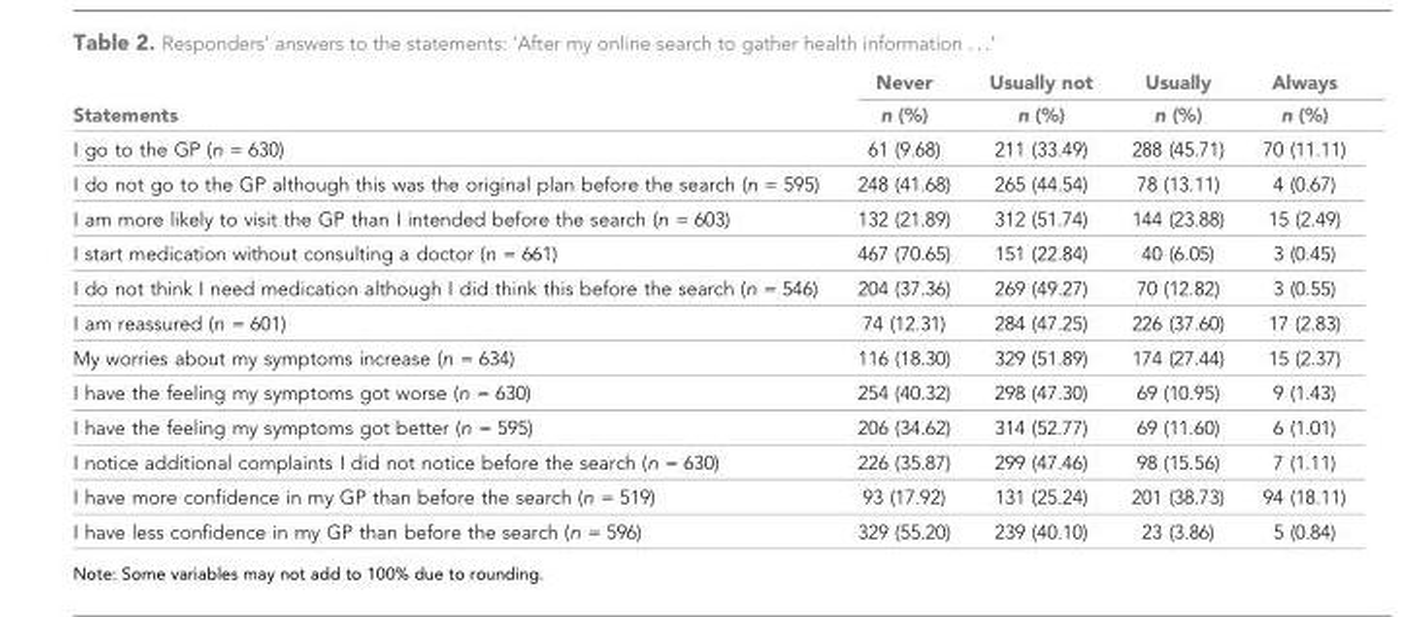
<table><thead><tr><td rowspan="2">Statements</td><td rowspan="2">Never n (%)</td><td rowspan="2">Usually not n (%)</td><td rowspan="2">Usually n (%)</td><td rowspan="2">Always n (%)</td></tr><tr></tr></thead><tbody><tr><td>I go to the GP (n = 630)</td><td>61 (9.68)</td><td>211 (33.49)</td><td>288 (45.71)</td><td>70 (11.11)</td></tr><tr><td>I do not go to the GP although this was the original plan before the search (n = 595)</td><td>248 (41.68)</td><td>265 (44.54)</td><td>78 (13.11)</td><td>4 (0.67)</td></tr><tr><td>I am more likely to visit the GP than I intended before the search (n = 603)</td><td>132 (21.89)</td><td>312 (51.74)</td><td>144 (23.88)</td><td>15 (2.49)</td></tr><tr><td>I start medication without consulting a doctor (n = 661)</td><td>467 (70.65)</td><td>151 (22.84)</td><td>40 (6.05)</td><td>3 (0.45)</td></tr><tr><td>I do not think I need medication although I did think this before the search (n = 546)</td><td>204 (37.36)</td><td>269 (49.27)</td><td>70 (12.82)</td><td>3 (0.55)</td></tr><tr><td>I am reassured (n = 601)</td><td>74 (12.31)</td><td>284 (47.25)</td><td>226 (37.60)</td><td>17 (2.83)</td></tr><tr><td>My worries about my symptoms increase (n = 634)</td><td>116 (18.30)</td><td>329 (51.89)</td><td>174 (27.44)</td><td>15 (2.37)</td></tr><tr><td>I have the feeling my symptoms got worse (n = 630)</td><td>254 (40.32)</td><td>298 (47.30)</td><td>69 (10.95)</td><td>9 (1.43)</td></tr><tr><td>I have the feeling my symptoms got better (n = 595)</td><td>206 (34.62)</td><td>314 (52.77)</td><td>69 (11.60)</td><td>6 (1.01)</td></tr><tr><td>I notice additional complaints I did not notice before the search (n = 630)</td><td>226 (35.87)</td><td>299 (47.46)</td><td>98 (15.56)</td><td>7 (1.11)</td></tr><tr><td>I have more confidence in my GP than before the search (n = 519)</td><td>93 (17.92)</td><td>131 (25.24)</td><td>201 (38.73)</td><td>94 (18.11)</td></tr><tr><td>I have less confidence in my GP than before the search (n = 596)</td><td>329 (55.20)</td><td>239 (40.10)</td><td>23 (3.86)</td><td>5 (0.84)</td></tr></tbody></table>